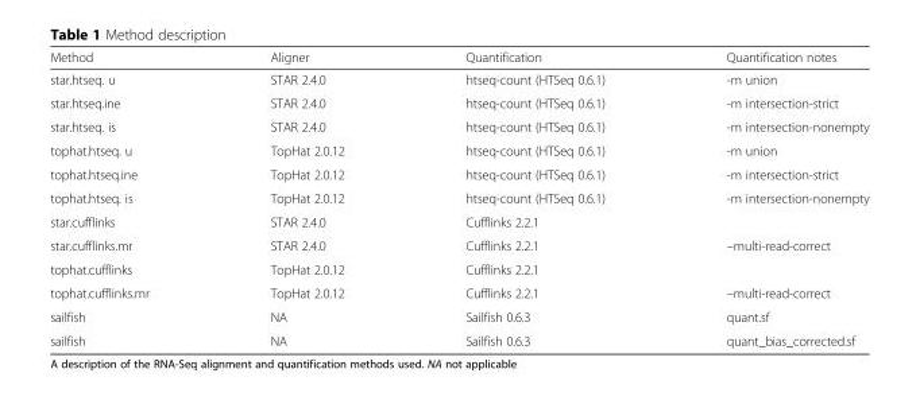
<table><thead><tr><td>Method</td><td>Aligner</td><td>Quantification</td><td>Quantification notes</td></tr></thead><tbody><tr><td>star.htseq. u</td><td>STAR 2.4.0</td><td>htseq-count (HTSeq 0.6.1)</td><td>-m union</td></tr><tr><td>star.htseq.ine</td><td>STAR 2.4.0</td><td>htseq-count (HTSeq 0.6.1)</td><td>-m intersection-strict</td></tr><tr><td>star.htseq. is</td><td>STAR 2.4.0</td><td>htseq-count (HTSeq 0.6.1)</td><td>-m intersection-nonempty</td></tr><tr><td>tophat.htseq. u</td><td>TopHat 2.0.12</td><td>htseq-count (HTSeq 0.6.1)</td><td>-m union</td></tr><tr><td>tophat.htseq.ine</td><td>TopHat 2.0.12</td><td>htseq-count (HTSeq 0.6.1)</td><td>-m intersection-strict</td></tr><tr><td>tophat.htseq. is</td><td>TopHat 2.0.12</td><td>htseq-count (HTSeq 0.6.1)</td><td>-m intersection-nonempty</td></tr><tr><td>star.cufflinks</td><td>STAR 2.4.0</td><td>Cufflinks 2.2.1</td><td></td></tr><tr><td>star.cufflinks.mr</td><td>STAR 2.4.0</td><td>Cufflinks 2.2.1</td><td>–multi-read-correct</td></tr><tr><td>tophat.cufflinks</td><td>TopHat 2.0.12</td><td>Cufflinks 2.2.1</td><td></td></tr><tr><td>tophat.cufflinks.mr</td><td>TopHat 2.0.12</td><td>Cufflinks 2.2.1</td><td>–multi-read-correct</td></tr><tr><td>sailfish</td><td>NA</td><td>Sailfish 0.6.3</td><td>quant.sf</td></tr><tr><td>sailfish</td><td>NA</td><td>Sailfish 0.6.3</td><td>quant_bias_corrected.sf</td></tr></tbody></table>